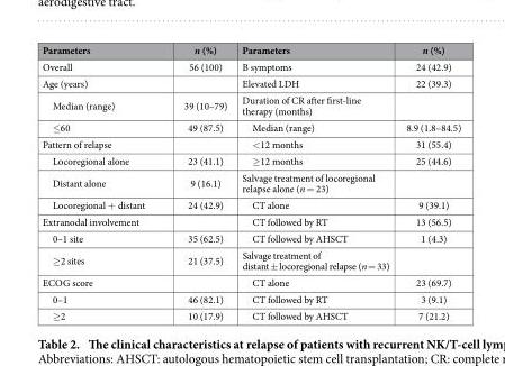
<table><thead><tr><td>Parameters</td><td>n (%)</td><td>Parameters</td><td>n (%)</td></tr></thead><tbody><tr><td>Overall</td><td>56 (100)</td><td>B symptoms</td><td>24 (42.9)</td></tr><tr><td>Age (years)</td><td></td><td>Elevated LDH</td><td>22 (39.3)</td></tr><tr><td>Median (range)</td><td>39 (10–79)</td><td>Duration of CR after first-line therapy (months)</td><td></td></tr><tr><td>≤60</td><td>49 (87.5)</td><td>Median (range)</td><td>8.9 (1.8–84.5)</td></tr><tr><td>Pattern of relapse</td><td></td><td>&lt;12 months</td><td>31 (55.4)</td></tr><tr><td>Locoregional alone</td><td>23 (41.1)</td><td>≥12 months</td><td>25 (44.6)</td></tr><tr><td>Distant alone</td><td>9 (16.1)</td><td>Salvage treatment of locoregional relapse alone (n = 23)</td><td></td></tr><tr><td>Locoregional + distant</td><td>24 (42.9)</td><td>CT alone</td><td>9 (39.1)</td></tr><tr><td>Extranodal involvement</td><td></td><td>CT followed by RT</td><td>13 (56.5)</td></tr><tr><td>0–1 site</td><td>35 (62.5)</td><td>CT followed by AHSCT</td><td>1 (4.3)</td></tr><tr><td>≥2 sites</td><td>21 (37.5)</td><td>Salvage treatment of distant ± locoregional relapse (n = 33)</td><td></td></tr><tr><td>ECOG score</td><td></td><td>CT alone</td><td>23 (69.7)</td></tr><tr><td>0–1</td><td>46 (82.1)</td><td>CT followed by RT</td><td>3 (9.1)</td></tr><tr><td>≥2</td><td>10 (17.9)</td><td>CT followed by AHSCT</td><td>7 (21.2)</td></tr></tbody></table>